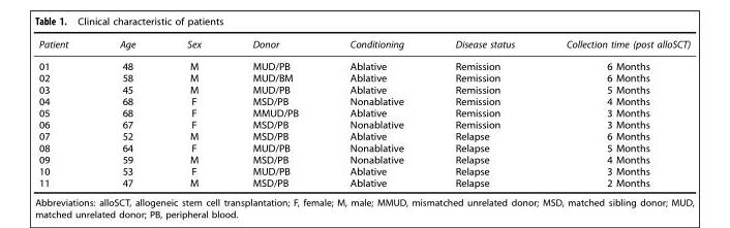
<table><thead><tr><td>Patient</td><td>Age</td><td>Sex</td><td>Donor</td><td>Conditioning</td><td>Disease status</td><td>Collection time (post alloSCT)</td></tr></thead><tbody><tr><td>01</td><td>48</td><td>M</td><td>MUD/PB</td><td>Ablative</td><td>Remission</td><td>6 Months</td></tr><tr><td>02</td><td>58</td><td>M</td><td>MUD/BM</td><td>Ablative</td><td>Remission</td><td>6 Months</td></tr><tr><td>03</td><td>45</td><td>M</td><td>MUD/PB</td><td>Ablative</td><td>Remission</td><td>5 Months</td></tr><tr><td>04</td><td>68</td><td>F</td><td>MSD/PB</td><td>Nonablative</td><td>Remission</td><td>4 Months</td></tr><tr><td>05</td><td>68</td><td>F</td><td>MMUD/PB</td><td>Ablative</td><td>Remission</td><td>3 Months</td></tr><tr><td>06</td><td>67</td><td>F</td><td>MSD/PB</td><td>Nonablative</td><td>Remission</td><td>3 Months</td></tr><tr><td>07</td><td>52</td><td>M</td><td>MSD/PB</td><td>Ablative</td><td>Relapse</td><td>6 Months</td></tr><tr><td>08</td><td>64</td><td>F</td><td>MUD/PB</td><td>Nonablative</td><td>Relapse</td><td>5 Months</td></tr><tr><td>09</td><td>59</td><td>M</td><td>MSD/PB</td><td>Nonablative</td><td>Relapse</td><td>4 Months</td></tr><tr><td>10</td><td>53</td><td>F</td><td>MUD/PB</td><td>Ablative</td><td>Relapse</td><td>3 Months</td></tr><tr><td>11</td><td>47</td><td>M</td><td>MSD/PB</td><td>Ablative</td><td>Relapse</td><td>2 Months</td></tr></tbody></table>